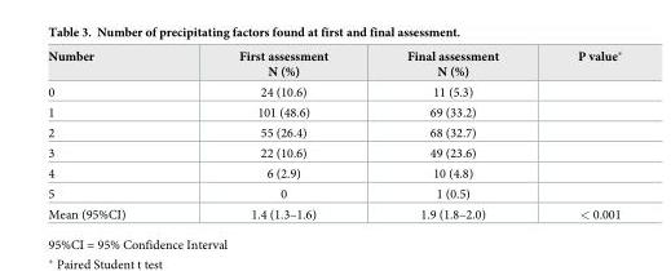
<table><thead><tr><td>Number</td><td>First assessment N (%)</td><td>Final assessment N (%)</td><td>P value*</td></tr></thead><tbody><tr><td>0</td><td>24 (10.6)</td><td>11 (5.3)</td><td></td></tr><tr><td>1</td><td>101 (48.6)</td><td>69 (33.2)</td><td></td></tr><tr><td>2</td><td>55 (26.4)</td><td>68 (32.7)</td><td></td></tr><tr><td>3</td><td>22 (10.6)</td><td>49 (23.6)</td><td></td></tr><tr><td>4</td><td>6 (2.9)</td><td>10 (4.8)</td><td></td></tr><tr><td>5</td><td>0</td><td>1 (0.5)</td><td></td></tr><tr><td>Mean (95%CI)</td><td>1.4 (1.3–1.6)</td><td>1.9 (1.8–2.0)</td><td>&lt; 0.001</td></tr></tbody></table>